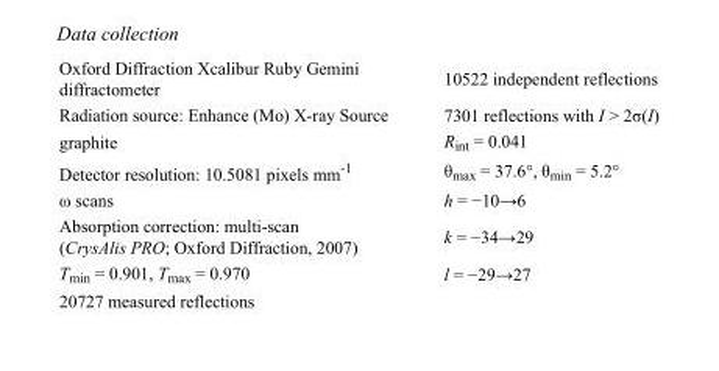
<table><tbody><tr><td>Oxford Diffraction Xcalibur Ruby Gemini diffractometer</td><td>10522 independent reflections</td></tr><tr><td>Radiation source: Enhance (Mo) X-ray Source</td><td>7301 reflections with I &gt; 2σ(I)</td></tr><tr><td>graphite</td><td>R<sub>int</sub> = 0.041</td></tr><tr><td>Detector resolution: 10.5081 pixels mm<sup>-1</sup></td><td>θ<sub>max</sub> = 37.6°, θ<sub>min</sub> = 5.2°</td></tr><tr><td>ω scans</td><td>h = −10→6</td></tr><tr><td>Absorption correction: multi-scan (CrysAlis PRO; Oxford Diffraction, 2007)</td><td>k = −34→29</td></tr><tr><td>T<sub>min</sub> = 0.901, T<sub>max</sub> = 0.970</td><td>l = −29→27</td></tr><tr><td>20727 measured reflections</td><td></td></tr></tbody></table>